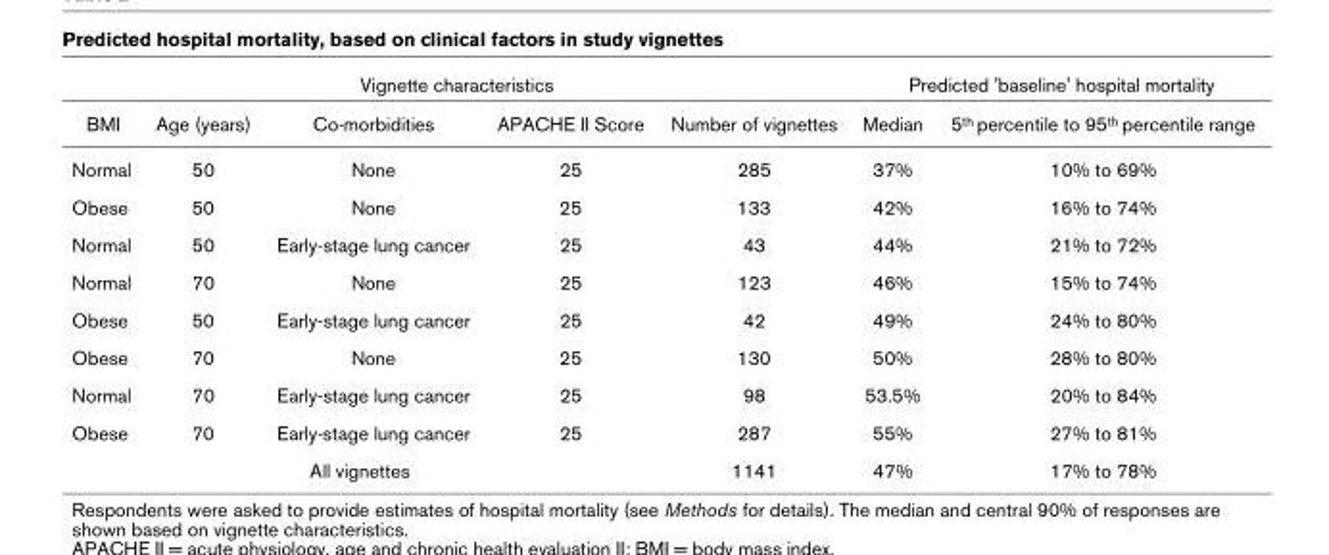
<table><thead><tr><td colspan="5">Vignette characteristics</td><td colspan="2">Predicted &#x27;baseline&#x27; hospital mortality</td></tr><tr><td>BMI</td><td>Age (years)</td><td>Co-morbidities</td><td>APACHE II Score</td><td>Number of vignettes</td><td>Median</td><td>5<sup>th</sup> percentile to 95<sup>th</sup> percentile range</td></tr></thead><tbody><tr><td>Normal</td><td>50</td><td>None</td><td>25</td><td>285</td><td>37%</td><td>10% to 69%</td></tr><tr><td>Obese</td><td>50</td><td>None</td><td>25</td><td>133</td><td>42%</td><td>16% to 74%</td></tr><tr><td>Normal</td><td>50</td><td>Early-stage lung cancer</td><td>25</td><td>43</td><td>44%</td><td>21% to 72%</td></tr><tr><td>Normal</td><td>70</td><td>None</td><td>25</td><td>123</td><td>46%</td><td>15% to 74%</td></tr><tr><td>Obese</td><td>50</td><td>Early-stage lung cancer</td><td>25</td><td>42</td><td>49%</td><td>24% to 80%</td></tr><tr><td>Obese</td><td>70</td><td>None</td><td>25</td><td>130</td><td>50%</td><td>28% to 80%</td></tr><tr><td>Normal</td><td>70</td><td>Early-stage lung cancer</td><td>25</td><td>98</td><td>53.5%</td><td>20% to 84%</td></tr><tr><td>Obese</td><td>70</td><td>Early-stage lung cancer</td><td>25</td><td>287</td><td>55%</td><td>27% to 81%</td></tr><tr><td colspan="4">All vignettes</td><td>1141</td><td>47%</td><td>17% to 78%</td></tr></tbody></table>